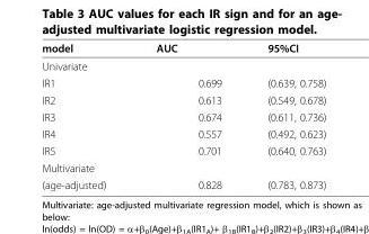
<table><thead><tr><td>model</td><td>AUC</td><td>95%CI</td></tr></thead><tbody><tr><td colspan="3">Univariate</td></tr><tr><td>IR1</td><td>0.699</td><td>(0.639, 0.758)</td></tr><tr><td>IR2</td><td>0.613</td><td>(0.549, 0.678)</td></tr><tr><td>IR3</td><td>0.674</td><td>(0.611, 0.736)</td></tr><tr><td>IR4</td><td>0.557</td><td>(0.492, 0.623)</td></tr><tr><td>IR5</td><td>0.701</td><td>(0.640, 0.763)</td></tr><tr><td colspan="3">Multivariate</td></tr><tr><td>(age-adjusted)</td><td>0.828</td><td>(0.783, 0.873)</td></tr></tbody></table>